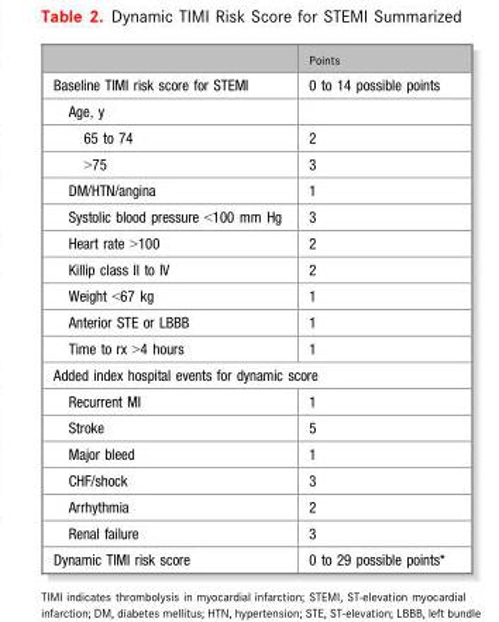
<table><thead><tr><td></td><td>Points</td></tr></thead><tbody><tr><td>Baseline TIMI risk score for STEMI</td><td>0 to 14 possible points</td></tr><tr><td colspan="2">Age, y</td></tr><tr><td>65 to 74</td><td>2</td></tr><tr><td>&gt;75</td><td>3</td></tr><tr><td>DM/HTN/angina</td><td>1</td></tr><tr><td>Systolic blood pressure &lt;100 mm Hg</td><td>3</td></tr><tr><td>Heart rate &gt;100</td><td>2</td></tr><tr><td>Killip class II to IV</td><td>2</td></tr><tr><td>Weight &lt;67 kg</td><td>1</td></tr><tr><td>Anterior STE or LBBB</td><td>1</td></tr><tr><td>Time to rx &gt;4 hours</td><td>1</td></tr><tr><td colspan="2">Added index hospital events for dynamic score</td></tr><tr><td>Recurrent MI</td><td>1</td></tr><tr><td>Stroke</td><td>5</td></tr><tr><td>Major bleed</td><td>1</td></tr><tr><td>CHF/shock</td><td>3</td></tr><tr><td>Arrhythmia</td><td>2</td></tr><tr><td>Renal failure</td><td>3</td></tr><tr><td>Dynamic TIMI risk score</td><td>0 to 29 possible points*</td></tr></tbody></table>